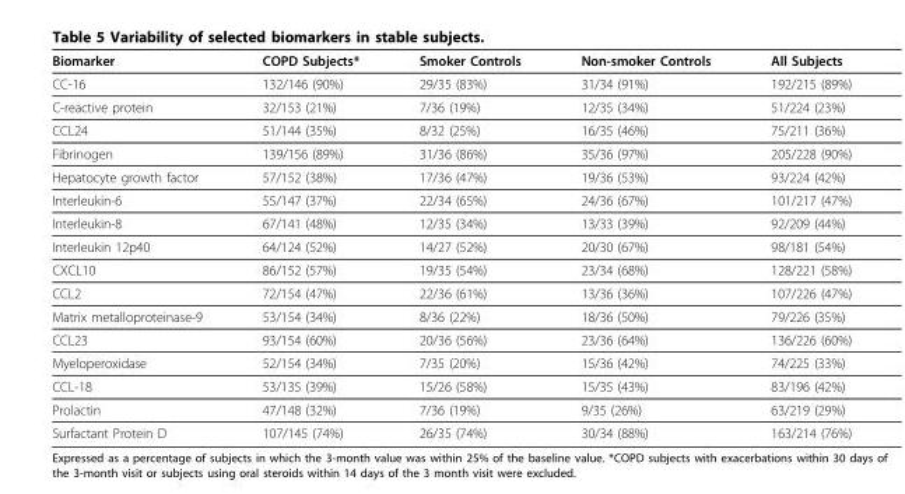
<table><thead><tr><td>Biomarker</td><td>COPD Subjects*</td><td>Smoker Controls</td><td>Non-smoker Controls</td><td>All Subjects</td></tr></thead><tbody><tr><td>CC-16</td><td>132/146 (90%)</td><td>29/35 (83%)</td><td>31/34 (91%)</td><td>192/215 (89%)</td></tr><tr><td>C-reactive protein</td><td>32/153 (21%)</td><td>7/36 (19%)</td><td>12/35 (34%)</td><td>51/224 (23%)</td></tr><tr><td>CCL24</td><td>51/144 (35%)</td><td>8/32 (25%)</td><td>16/35 (46%)</td><td>75/211 (36%)</td></tr><tr><td>Fibrinogen</td><td>139/156 (89%)</td><td>31/36 (86%)</td><td>35/36 (97%)</td><td>205/228 (90%)</td></tr><tr><td>Hepatocyte growth factor</td><td>57/152 (38%)</td><td>17/36 (47%)</td><td>19/36 (53%)</td><td>93/224 (42%)</td></tr><tr><td>Interleukin-6</td><td>55/147 (37%)</td><td>22/34 (65%)</td><td>24/36 (67%)</td><td>101/217 (47%)</td></tr><tr><td>Interleukin-8</td><td>67/141 (48%)</td><td>12/35 (34%)</td><td>13/33 (39%)</td><td>92/209 (44%)</td></tr><tr><td>Interleukin 12p40</td><td>64/124 (52%)</td><td>14/27 (52%)</td><td>20/30 (67%)</td><td>98/181 (54%)</td></tr><tr><td>CXCL10</td><td>86/152 (57%)</td><td>19/35 (54%)</td><td>23/34 (68%)</td><td>128/221 (58%)</td></tr><tr><td>CCL2</td><td>72/154 (47%)</td><td>22/36 (61%)</td><td>13/36 (36%)</td><td>107/226 (47%)</td></tr><tr><td>Matrix metalloproteinase-9</td><td>53/154 (34%)</td><td>8/36 (22%)</td><td>18/36 (50%)</td><td>79/226 (35%)</td></tr><tr><td>CCL23</td><td>93/154 (60%)</td><td>20/36 (56%)</td><td>23/36 (64%)</td><td>136/226 (60%)</td></tr><tr><td>Myeloperoxidase</td><td>52/154 (34%)</td><td>7/35 (20%)</td><td>15/36 (42%)</td><td>74/225 (33%)</td></tr><tr><td>CCL-18</td><td>53/135 (39%)</td><td>15/26 (58%)</td><td>15/35 (43%)</td><td>83/196 (42%)</td></tr><tr><td>Prolactin</td><td>47/148 (32%)</td><td>7/36 (19%)</td><td>9/35 (26%)</td><td>63/219 (29%)</td></tr><tr><td>Surfactant Protein D</td><td>107/145 (74%)</td><td>26/35 (74%)</td><td>30/34 (88%)</td><td>163/214 (76%)</td></tr></tbody></table>